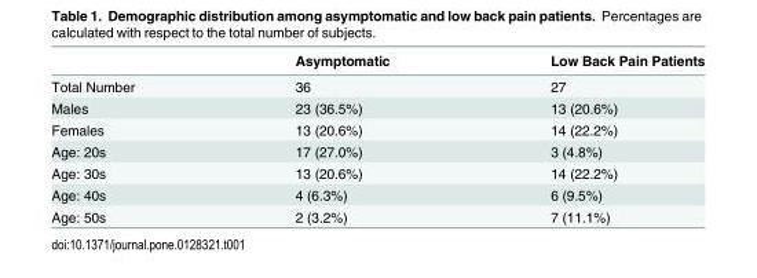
<table><thead><tr><td></td><td>Asymptomatic</td><td>Low Back Pain Patients</td></tr></thead><tbody><tr><td>Total Number</td><td>36</td><td>27</td></tr><tr><td>Males</td><td>23 (36.5%)</td><td>13 (20.6%)</td></tr><tr><td>Females</td><td>13 (20.6%)</td><td>14 (22.2%)</td></tr><tr><td>Age: 20s</td><td>17 (27.0%)</td><td>3 (4.8%)</td></tr><tr><td>Age: 30s</td><td>13 (20.6%)</td><td>14 (22.2%)</td></tr><tr><td>Age: 40s</td><td>4 (6.3%)</td><td>6 (9.5%)</td></tr><tr><td>Age: 50s</td><td>2 (3.2%)</td><td>7 (11.1%)</td></tr></tbody></table>